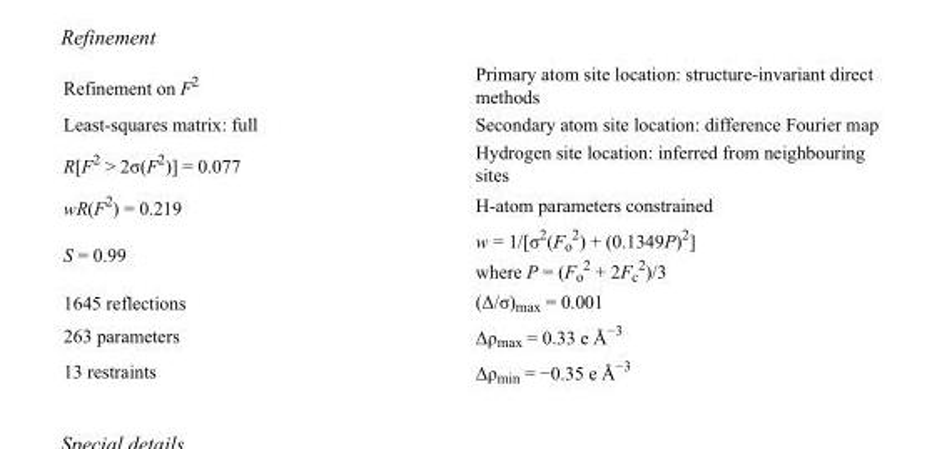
<table><tbody><tr><td>Refinement on F<sup>2</sup></td><td>Primary atom site location: structure-invariant direct methods</td></tr><tr><td>Least-squares matrix: full</td><td>Secondary atom site location: difference Fourier map</td></tr><tr><td>R[F<sup>2</sup> &gt; 2σ(F<sup>2</sup>)] = 0.077</td><td>Hydrogen site location: inferred from neighbouring sites</td></tr><tr><td>wR(F<sup>2</sup>) = 0.219</td><td>H-atom parameters constrained</td></tr><tr><td>S = 0.99</td><td>w = 1/[σ<sup>2</sup>(F<sub>o</sub> <sup>2</sup>) + (0.1349P)<sup>2</sup>] where P = (F<sub>o</sub> <sup>2</sup> + 2F<sub>c</sub> <sup>2</sup>)/3</td></tr><tr><td>1645 reflections</td><td>(Δ/σ)<sub>max</sub> = 0.001</td></tr><tr><td>263 parameters</td><td>Δρ<sub>max</sub> = 0.33 e Å<sup>−3</sup></td></tr><tr><td>13 restraints</td><td>Δρ<sub>min</sub> = −0.35 e Å<sup>−3</sup></td></tr></tbody></table>